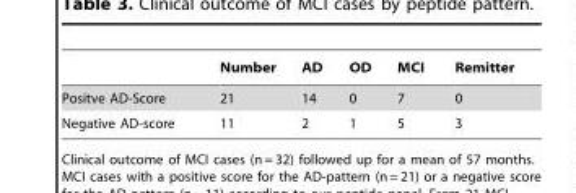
<table><thead><tr><td></td><td>Number</td><td>AD</td><td>OD</td><td>MCI</td><td>Remitter</td></tr></thead><tbody><tr><td>Positve AD-Score</td><td>21</td><td>14</td><td>0</td><td>7</td><td>0</td></tr><tr><td>Negative AD-score</td><td>11</td><td>2</td><td>1</td><td>5</td><td>3</td></tr></tbody></table>